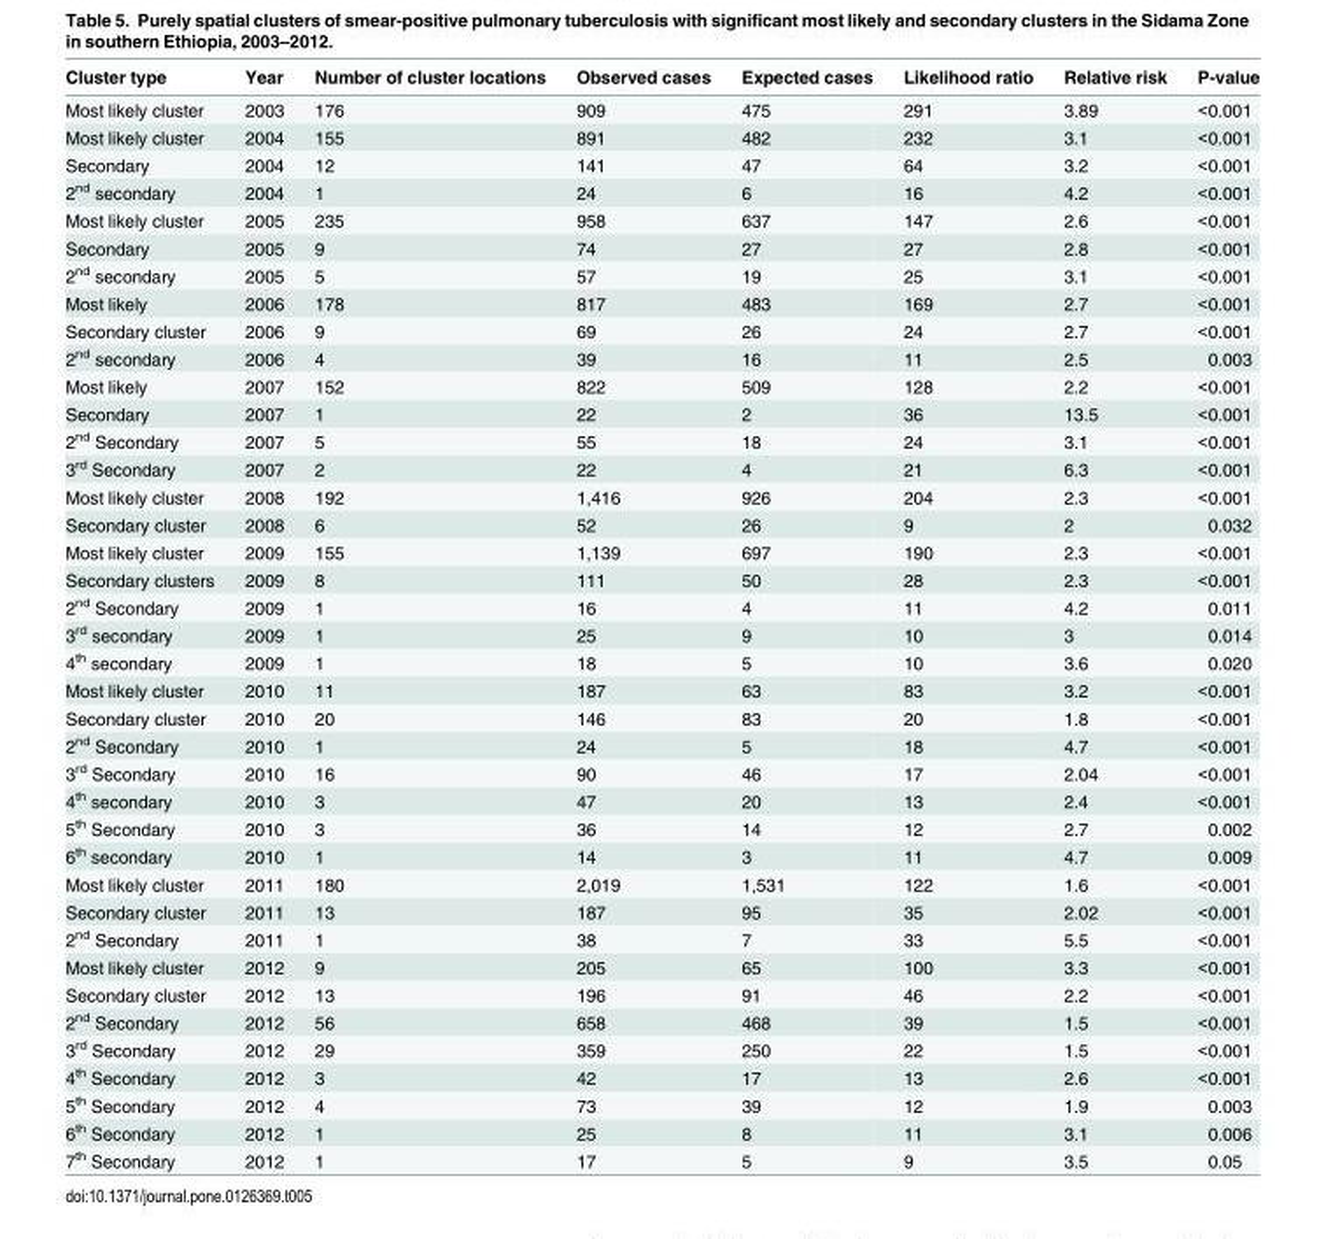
<table><thead><tr><td>Cluster type</td><td>Year</td><td>Number of cluster locations</td><td>Observed cases</td><td>Expected cases</td><td>Likelihood ratio</td><td>Relative risk</td><td>P-value</td></tr></thead><tbody><tr><td>Most likely cluster</td><td>2003</td><td>176</td><td>909</td><td>475</td><td>291</td><td>3.89</td><td>&lt;0.001</td></tr><tr><td>Most likely cluster</td><td>2004</td><td>155</td><td>891</td><td>482</td><td>232</td><td>3.1</td><td>&lt;0.001</td></tr><tr><td>Secondary</td><td>2004</td><td>12</td><td>141</td><td>47</td><td>64</td><td>3.2</td><td>&lt;0.001</td></tr><tr><td>2<sup>nd</sup> secondary</td><td>2004</td><td>1</td><td>24</td><td>6</td><td>16</td><td>4.2</td><td>&lt;0.001</td></tr><tr><td>Most likely cluster</td><td>2005</td><td>235</td><td>958</td><td>637</td><td>147</td><td>2.6</td><td>&lt;0.001</td></tr><tr><td>Secondary</td><td>2005</td><td>9</td><td>74</td><td>27</td><td>27</td><td>2.8</td><td>&lt;0.001</td></tr><tr><td>2<sup>nd</sup> secondary</td><td>2005</td><td>5</td><td>57</td><td>19</td><td>25</td><td>3.1</td><td>&lt;0.001</td></tr><tr><td>Most likely</td><td>2006</td><td>178</td><td>817</td><td>483</td><td>169</td><td>2.7</td><td>&lt;0.001</td></tr><tr><td>Secondary cluster</td><td>2006</td><td>9</td><td>69</td><td>26</td><td>24</td><td>2.7</td><td>&lt;0.001</td></tr><tr><td>2<sup>nd</sup> secondary</td><td>2006</td><td>4</td><td>39</td><td>16</td><td>11</td><td>2.5</td><td>0.003</td></tr><tr><td>Most likely</td><td>2007</td><td>152</td><td>822</td><td>509</td><td>128</td><td>2.2</td><td>&lt;0.001</td></tr><tr><td>Secondary</td><td>2007</td><td>1</td><td>22</td><td>2</td><td>36</td><td>13.5</td><td>&lt;0.001</td></tr><tr><td>2<sup>nd</sup> Secondary</td><td>2007</td><td>5</td><td>55</td><td>18</td><td>24</td><td>3.1</td><td>&lt;0.001</td></tr><tr><td>3<sup>rd</sup> Secondary</td><td>2007</td><td>2</td><td>22</td><td>4</td><td>21</td><td>6.3</td><td>&lt;0.001</td></tr><tr><td>Most likely cluster</td><td>2008</td><td>192</td><td>1,416</td><td>926</td><td>204</td><td>2.3</td><td>&lt;0.001</td></tr><tr><td>Secondary cluster</td><td>2008</td><td>6</td><td>52</td><td>26</td><td>9</td><td>2</td><td>0.032</td></tr><tr><td>Most likely cluster</td><td>2009</td><td>155</td><td>1,139</td><td>697</td><td>190</td><td>2.3</td><td>&lt;0.001</td></tr><tr><td>Secondary clusters</td><td>2009</td><td>8</td><td>111</td><td>50</td><td>28</td><td>2.3</td><td>&lt;0.001</td></tr><tr><td>2<sup>nd</sup> Secondary</td><td>2009</td><td>1</td><td>16</td><td>4</td><td>11</td><td>4.2</td><td>0.011</td></tr><tr><td>3<sup>rd</sup> secondary</td><td>2009</td><td>1</td><td>25</td><td>9</td><td>10</td><td>3</td><td>0.014</td></tr><tr><td>4<sup>th</sup> secondary</td><td>2009</td><td>1</td><td>18</td><td>5</td><td>10</td><td>3.6</td><td>0.020</td></tr><tr><td>Most likely cluster</td><td>2010</td><td>11</td><td>187</td><td>63</td><td>83</td><td>3.2</td><td>&lt;0.001</td></tr><tr><td>Secondary cluster</td><td>2010</td><td>20</td><td>146</td><td>83</td><td>20</td><td>1.8</td><td>&lt;0.001</td></tr><tr><td>2<sup>nd</sup> Secondary</td><td>2010</td><td>1</td><td>24</td><td>5</td><td>18</td><td>4.7</td><td>&lt;0.001</td></tr><tr><td>3<sup>rd</sup> Secondary</td><td>2010</td><td>16</td><td>90</td><td>46</td><td>17</td><td>2.04</td><td>&lt;0.001</td></tr><tr><td>4<sup>th</sup> secondary</td><td>2010</td><td>3</td><td>47</td><td>20</td><td>13</td><td>2.4</td><td>&lt;0.001</td></tr><tr><td>5<sup>th</sup> Secondary</td><td>2010</td><td>3</td><td>36</td><td>14</td><td>12</td><td>2.7</td><td>0.002</td></tr><tr><td>6<sup>th</sup> secondary</td><td>2010</td><td>1</td><td>14</td><td>3</td><td>11</td><td>4.7</td><td>0.009</td></tr><tr><td>Most likely cluster</td><td>2011</td><td>180</td><td>2,019</td><td>1,531</td><td>122</td><td>1.6</td><td>&lt;0.001</td></tr><tr><td>Secondary cluster</td><td>2011</td><td>13</td><td>187</td><td>95</td><td>35</td><td>2.02</td><td>&lt;0.001</td></tr><tr><td>2<sup>nd</sup> Secondary</td><td>2011</td><td>1</td><td>38</td><td>7</td><td>33</td><td>5.5</td><td>&lt;0.001</td></tr><tr><td>Most likely cluster</td><td>2012</td><td>9</td><td>205</td><td>65</td><td>100</td><td>3.3</td><td>&lt;0.001</td></tr><tr><td>Secondary cluster</td><td>2012</td><td>13</td><td>196</td><td>91</td><td>46</td><td>2.2</td><td>&lt;0.001</td></tr><tr><td>2<sup>nd</sup> Secondary</td><td>2012</td><td>56</td><td>658</td><td>468</td><td>39</td><td>1.5</td><td>&lt;0.001</td></tr><tr><td>3<sup>rd</sup> Secondary</td><td>2012</td><td>29</td><td>359</td><td>250</td><td>22</td><td>1.5</td><td>&lt;0.001</td></tr><tr><td>4<sup>th</sup> Secondary</td><td>2012</td><td>3</td><td>42</td><td>17</td><td>13</td><td>2.6</td><td>&lt;0.001</td></tr><tr><td>5<sup>th</sup> Secondary</td><td>2012</td><td>4</td><td>73</td><td>39</td><td>12</td><td>1.9</td><td>0.003</td></tr><tr><td>6<sup>th</sup> Secondary</td><td>2012</td><td>1</td><td>25</td><td>8</td><td>11</td><td>3.1</td><td>0.006</td></tr><tr><td>7<sup>th</sup> Secondary</td><td>2012</td><td>1</td><td>17</td><td>5</td><td>9</td><td>3.5</td><td>0.05</td></tr></tbody></table>